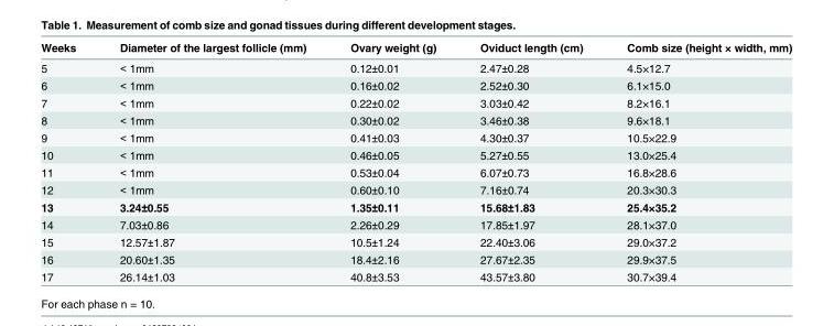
<table><thead><tr><td>Weeks</td><td>Diameter of the largest follicle (mm)</td><td>Ovary weight (g)</td><td>Oviduct length (cm)</td><td>Comb size (height × width, mm)</td></tr></thead><tbody><tr><td>5</td><td>&lt; 1mm</td><td>0.12±0.01</td><td>2.47±0.28</td><td>4.5×12.7</td></tr><tr><td>6</td><td>&lt; 1mm</td><td>0.16±0.02</td><td>2.52±0.30</td><td>6.1×15.0</td></tr><tr><td>7</td><td>&lt; 1mm</td><td>0.22±0.02</td><td>3.03±0.42</td><td>8.2×16.1</td></tr><tr><td>8</td><td>&lt; 1mm</td><td>0.30±0.02</td><td>3.46±0.38</td><td>9.6×18.1</td></tr><tr><td>9</td><td>&lt; 1mm</td><td>0.41±0.03</td><td>4.30±0.37</td><td>10.5×22.9</td></tr><tr><td>10</td><td>&lt; 1mm</td><td>0.46±0.05</td><td>5.27±0.55</td><td>13.0×25.4</td></tr><tr><td>11</td><td>&lt; 1mm</td><td>0.53±0.04</td><td>6.07±0.73</td><td>16.8×28.6</td></tr><tr><td>12</td><td>&lt; 1mm</td><td>0.60±0.10</td><td>7.16±0.74</td><td>20.3×30.3</td></tr><tr><td>13</td><td>3.24±0.55</td><td>1.35±0.11</td><td>15.68±1.83</td><td>25.4×35.2</td></tr><tr><td>14</td><td>7.03±0.86</td><td>2.26±0.29</td><td>17.85±1.97</td><td>28.1×37.0</td></tr><tr><td>15</td><td>12.57±1.87</td><td>10.5±1.24</td><td>22.40±3.06</td><td>29.0×37.2</td></tr><tr><td>16</td><td>20.60±1.35</td><td>18.4±2.16</td><td>27.67±2.35</td><td>29.9×37.5</td></tr><tr><td>17</td><td>26.14±1.03</td><td>40.8±3.53</td><td>43.57±3.80</td><td>30.7×39.4</td></tr></tbody></table>